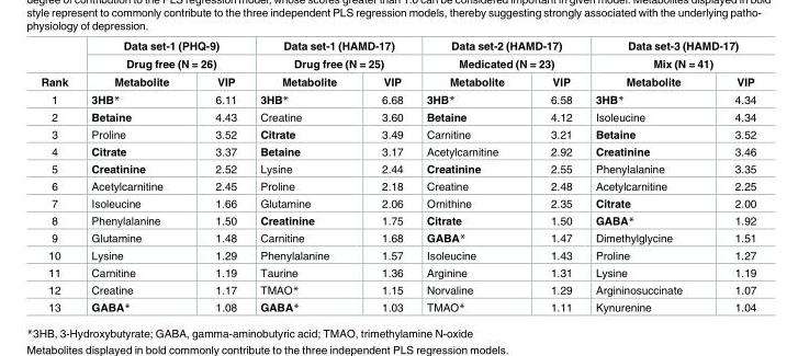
<table><thead><tr><td rowspan="3">Rank</td><td rowspan="2" colspan="2">Data set-1 (PHQ-9) Drug free (N = 26)</td><td rowspan="2" colspan="2">Data set-1 (HAMD-17) Drug free (N = 25)</td><td rowspan="2" colspan="2">Data set-2 (HAMD-17) Medicated (N = 23)</td><td rowspan="2" colspan="2">Data set-3 (HAMD-17) Mix (N = 41)</td></tr><tr></tr><tr><td>Metabolite</td><td>VIP</td><td>Metabolite</td><td>VIP</td><td>Metabolite</td><td>VIP</td><td>Metabolite</td><td>VIP</td></tr></thead><tbody><tr><td>1</td><td>3HB*</td><td>6.11</td><td>3HB*</td><td>6.68</td><td>3HB*</td><td>6.58</td><td>3HB*</td><td>4.34</td></tr><tr><td>2</td><td>Betaine</td><td>4.43</td><td>Creatine</td><td>3.60</td><td>Betaine</td><td>4.12</td><td>Isoleucine</td><td>4.34</td></tr><tr><td>3</td><td>Proline</td><td>3.52</td><td>Citrate</td><td>3.49</td><td>Carnitine</td><td>3.21</td><td>Betaine</td><td>3.52</td></tr><tr><td>4</td><td>Citrate</td><td>3.37</td><td>Betaine</td><td>3.17</td><td>Acetylcarnitine</td><td>2.92</td><td>Creatinine</td><td>3.46</td></tr><tr><td>5</td><td>Creatinine</td><td>2.52</td><td>Lysine</td><td>2.44</td><td>Creatinine</td><td>2.55</td><td>Phenylalanine</td><td>3.35</td></tr><tr><td>6</td><td>Acetylcarnitine</td><td>2.45</td><td>Proline</td><td>2.18</td><td>Creatine</td><td>2.48</td><td>Acetylcarnitine</td><td>2.25</td></tr><tr><td>7</td><td>Isoleucine</td><td>1.66</td><td>Glutamine</td><td>2.06</td><td>Ornithine</td><td>2.35</td><td>Citrate</td><td>2.00</td></tr><tr><td>8</td><td>Phenylalanine</td><td>1.50</td><td>Creatinine</td><td>1.75</td><td>Citrate</td><td>1.50</td><td>GABA*</td><td>1.92</td></tr><tr><td>9</td><td>Glutamine</td><td>1.48</td><td>Carnitine</td><td>1.68</td><td>GABA*</td><td>1.47</td><td>Dimethylglycine</td><td>1.51</td></tr><tr><td>10</td><td>Lysine</td><td>1.29</td><td>Phenylalanine</td><td>1.57</td><td>Isoleucine</td><td>1.43</td><td>Proline</td><td>1.27</td></tr><tr><td>11</td><td>Carnitine</td><td>1.19</td><td>Taurine</td><td>1.36</td><td>Arginine</td><td>1.31</td><td>Lysine</td><td>1.19</td></tr><tr><td>12</td><td>Creatine</td><td>1.17</td><td>TMAO*</td><td>1.15</td><td>Norvaline</td><td>1.29</td><td>Argininosuccinate</td><td>1.07</td></tr><tr><td>13</td><td>GABA*</td><td>1.08</td><td>GABA*</td><td>1.03</td><td>TMAO*</td><td>1.11</td><td>Kynurenine</td><td>1.04</td></tr></tbody></table>